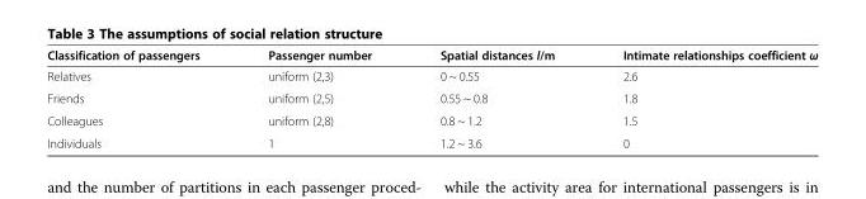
<table><thead><tr><td>Classification of passengers</td><td>Passenger number</td><td>Spatial distances l/m</td><td>Intimate relationships coefficient ω</td></tr></thead><tbody><tr><td>Relatives</td><td>uniform (2,3)</td><td>0 ~ 0.55</td><td>2.6</td></tr><tr><td>Friends</td><td>uniform (2,5)</td><td>0.55 ~ 0.8</td><td>1.8</td></tr><tr><td>Colleagues</td><td>uniform (2,8)</td><td>0.8 ~ 1.2</td><td>1.5</td></tr><tr><td>Individuals</td><td>1</td><td>1.2 ~ 3.6</td><td>0</td></tr></tbody></table>